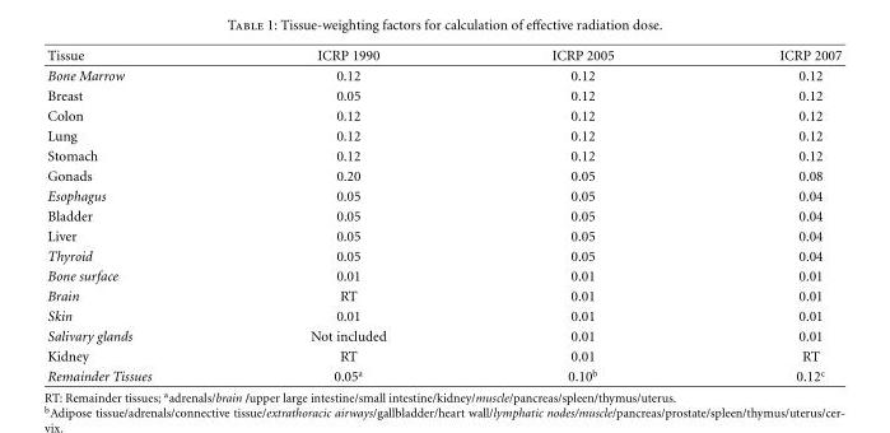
<table><thead><tr><td>Tissue</td><td>ICRP 1990</td><td>ICRP 2005</td><td>ICRP 2007</td></tr></thead><tbody><tr><td>Bone Marrow</td><td>0.12</td><td>0.12</td><td>0.12</td></tr><tr><td>Breast</td><td>0.05</td><td>0.12</td><td>0.12</td></tr><tr><td>Colon</td><td>0.12</td><td>0.12</td><td>0.12</td></tr><tr><td>Lung</td><td>0.12</td><td>0.12</td><td>0.12</td></tr><tr><td>Stomach</td><td>0.12</td><td>0.12</td><td>0.12</td></tr><tr><td>Gonads</td><td>0.20</td><td>0.05</td><td>0.08</td></tr><tr><td>Esophagus</td><td>0.05</td><td>0.05</td><td>0.04</td></tr><tr><td>Bladder</td><td>0.05</td><td>0.05</td><td>0.04</td></tr><tr><td>Liver</td><td>0.05</td><td>0.05</td><td>0.04</td></tr><tr><td>Thyroid</td><td>0.05</td><td>0.05</td><td>0.04</td></tr><tr><td>Bone surface</td><td>0.01</td><td>0.01</td><td>0.01</td></tr><tr><td>Brain</td><td>RT</td><td>0.01</td><td>0.01</td></tr><tr><td>Skin</td><td>0.01</td><td>0.01</td><td>0.01</td></tr><tr><td>Salivary glands</td><td>Not included</td><td>0.01</td><td>0.01</td></tr><tr><td>Kidney</td><td>RT</td><td>0.01</td><td>RT</td></tr><tr><td>Remainder Tissues</td><td>0.05<sup>a</sup></td><td>0.10<sup>b</sup></td><td>0.12<sup>c</sup></td></tr></tbody></table>